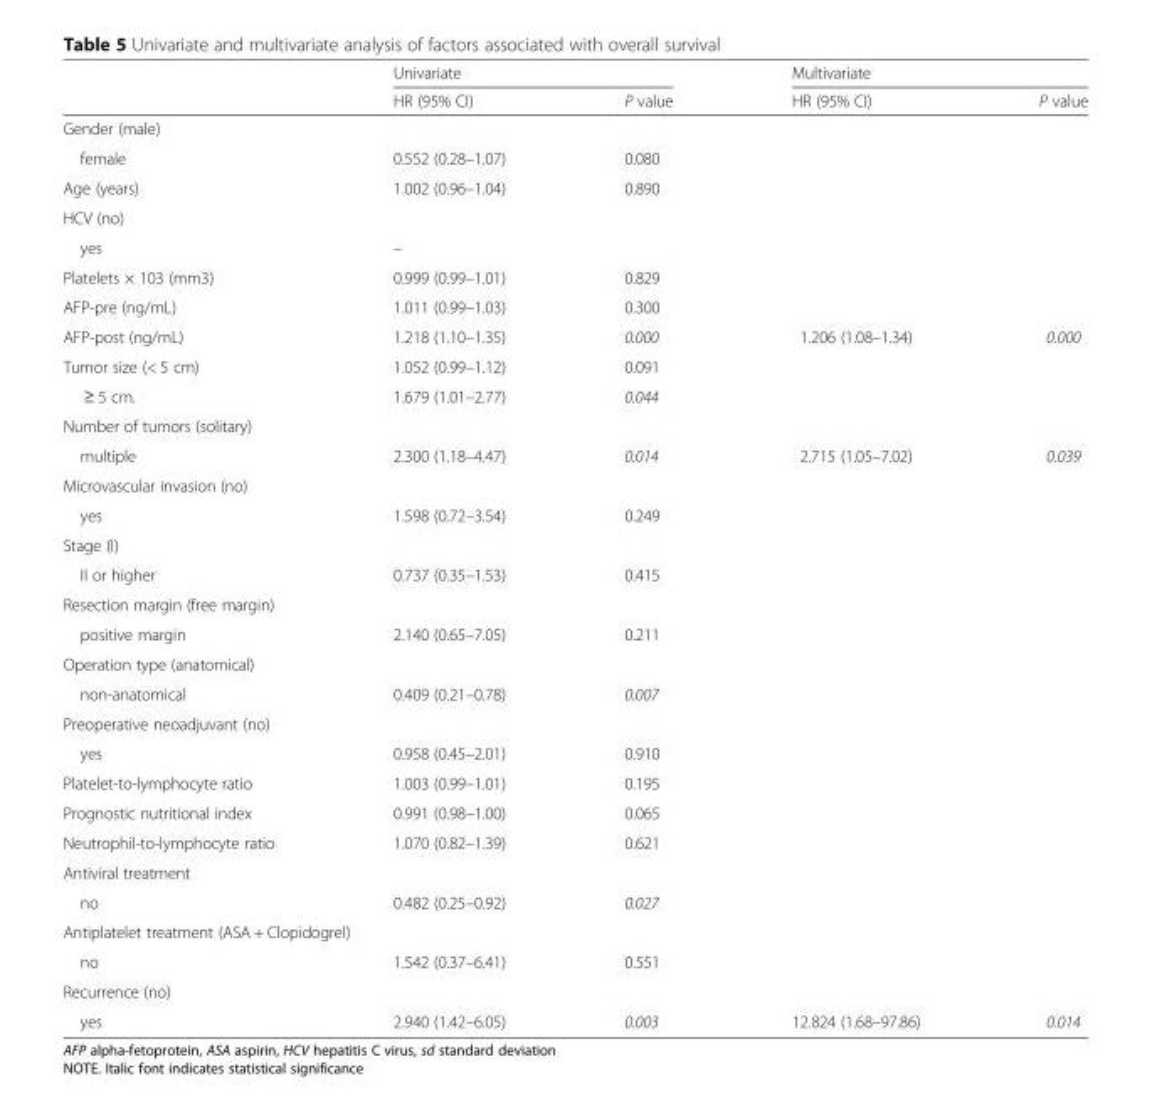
<table><thead><tr><td rowspan="2"></td><td colspan="2">Univariate</td><td colspan="2">Multivariate</td></tr><tr><td>HR (95% CI)</td><td>P value</td><td>HR (95% CI)</td><td>P value</td></tr></thead><tbody><tr><td colspan="5">Gender (male)</td></tr><tr><td>female</td><td>0.552 (0.28–1.07)</td><td>0.080</td><td></td><td></td></tr><tr><td>Age (years)</td><td>1.002 (0.96–1.04)</td><td>0.890</td><td></td><td></td></tr><tr><td colspan="5">HCV (no)</td></tr><tr><td>yes</td><td>–</td><td></td><td></td><td></td></tr><tr><td>Platelets × 103 (mm3)</td><td>0.999 (0.99–1.01)</td><td>0.829</td><td></td><td></td></tr><tr><td>AFP-pre (ng/mL)</td><td>1.011 (0.99–1.03)</td><td>0.300</td><td></td><td></td></tr><tr><td>AFP-post (ng/mL)</td><td>1.218 (1.10–1.35)</td><td>0.000</td><td>1.206 (1.08–1.34)</td><td>0.000</td></tr><tr><td>Tumor size (&lt; 5 cm)</td><td>1.052 (0.99–1.12)</td><td>0.091</td><td></td><td></td></tr><tr><td>≥ 5 cm.</td><td>1.679 (1.01–2.77)</td><td>0.044</td><td></td><td></td></tr><tr><td colspan="5">Number of tumors (solitary)</td></tr><tr><td>multiple</td><td>2.300 (1.18–4.47)</td><td>0.014</td><td>2.715 (1.05–7.02)</td><td>0.039</td></tr><tr><td colspan="5">Microvascular invasion (no)</td></tr><tr><td>yes</td><td>1.598 (0.72–3.54)</td><td>0.249</td><td></td><td></td></tr><tr><td colspan="5">Stage (I)</td></tr><tr><td>II or higher</td><td>0.737 (0.35–1.53)</td><td>0.415</td><td></td><td></td></tr><tr><td colspan="5">Resection margin (free margin)</td></tr><tr><td>positive margin</td><td>2.140 (0.65–7.05)</td><td>0.211</td><td></td><td></td></tr><tr><td colspan="5">Operation type (anatomical)</td></tr><tr><td>non-anatomical</td><td>0.409 (0.21–0.78)</td><td>0.007</td><td></td><td></td></tr><tr><td colspan="5">Preoperative neoadjuvant (no)</td></tr><tr><td>yes</td><td>0.958 (0.45–2.01)</td><td>0.910</td><td></td><td></td></tr><tr><td>Platelet-to-lymphocyte ratio</td><td>1.003 (0.99–1.01)</td><td>0.195</td><td></td><td></td></tr><tr><td>Prognostic nutritional index</td><td>0.991 (0.98–1.00)</td><td>0.065</td><td></td><td></td></tr><tr><td>Neutrophil-to-lymphocyte ratio</td><td>1.070 (0.82–1.39)</td><td>0.621</td><td></td><td></td></tr><tr><td colspan="5">Antiviral treatment</td></tr><tr><td>no</td><td>0.482 (0.25–0.92)</td><td>0.027</td><td></td><td></td></tr><tr><td colspan="5">Antiplatelet treatment (ASA + Clopidogrel)</td></tr><tr><td>no</td><td>1.542 (0.37–6.41)</td><td>0.551</td><td></td><td></td></tr><tr><td colspan="5">Recurrence (no)</td></tr><tr><td>yes</td><td>2.940 (1.42–6.05)</td><td>0.003</td><td>12.824 (1.68–97.86)</td><td>0.014</td></tr></tbody></table>